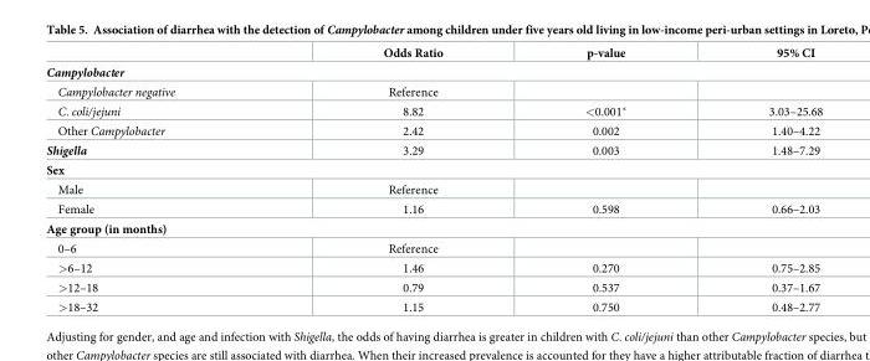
<table><thead><tr><td></td><td>Odds Ratio</td><td>p-value</td><td>95% CI</td></tr></thead><tbody><tr><td colspan="4">Campylobacter</td></tr><tr><td>Campylobacter negative</td><td>Reference</td><td></td><td></td></tr><tr><td>C. coli/jejuni</td><td>8.82</td><td>&lt;0.001*</td><td>3.03–25.68</td></tr><tr><td>Other Campylobacter</td><td>2.42</td><td>0.002</td><td>1.40–4.22</td></tr><tr><td>Shigella</td><td>3.29</td><td>0.003</td><td>1.48–7.29</td></tr><tr><td colspan="4">Sex</td></tr><tr><td>Male</td><td>Reference</td><td></td><td></td></tr><tr><td>Female</td><td>1.16</td><td>0.598</td><td>0.66–2.03</td></tr><tr><td colspan="4">Age group (in months)</td></tr><tr><td>0–6</td><td>Reference</td><td></td><td></td></tr><tr><td>&gt;6–12</td><td>1.46</td><td>0.270</td><td>0.75–2.85</td></tr><tr><td>&gt;12–18</td><td>0.79</td><td>0.537</td><td>0.37–1.67</td></tr><tr><td>&gt;18–32</td><td>1.15</td><td>0.750</td><td>0.48–2.77</td></tr></tbody></table>